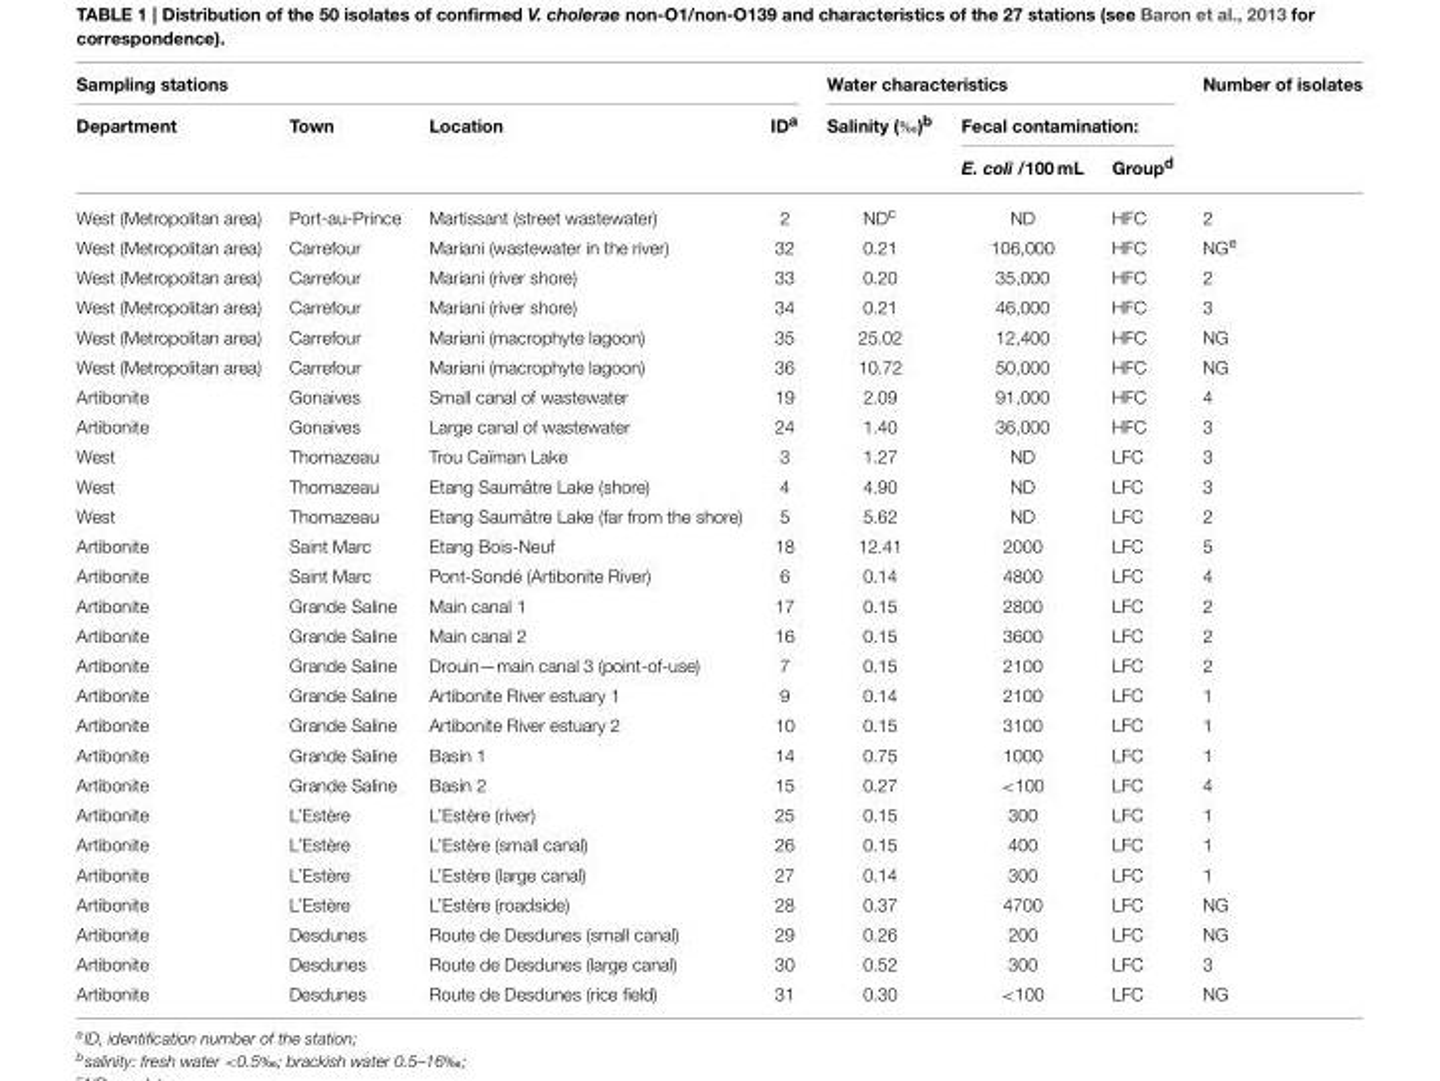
<table><thead><tr><td colspan="4">Sampling stations</td><td colspan="3">Water characteristics</td><td rowspan="3">Number of isolates</td></tr><tr><td rowspan="2">Department</td><td rowspan="2">Town</td><td rowspan="2">Location</td><td rowspan="2">ID<sup>a</sup></td><td rowspan="2">Salinity (‰)b</td><td colspan="2">Fecal contamination:</td></tr><tr><td>E. coli /100 mL</td><td>Group<sup>d</sup></td></tr></thead><tbody><tr><td>West (Metropolitan area)</td><td>Port-au-Prince</td><td>Martissant (street wastewater)</td><td>2</td><td>ND<sup>c</sup></td><td>ND</td><td>HFC</td><td>2</td></tr><tr><td>West (Metropolitan area)</td><td>Carrefour</td><td>Mariani (wastewater in the river)</td><td>32</td><td>0.21</td><td>106,000</td><td>HFC</td><td>NG<sup>e</sup></td></tr><tr><td>West (Metropolitan area)</td><td>Carrefour</td><td>Mariani (river shore)</td><td>33</td><td>0.20</td><td>35,000</td><td>HFC</td><td>2</td></tr><tr><td>West (Metropolitan area)</td><td>Carrefour</td><td>Mariani (river shore)</td><td>34</td><td>0.21</td><td>46,000</td><td>HFC</td><td>3</td></tr><tr><td>West (Metropolitan area)</td><td>Carrefour</td><td>Mariani (macrophyte lagoon)</td><td>35</td><td>25.02</td><td>12,400</td><td>HFC</td><td>NG</td></tr><tr><td>West (Metropolitan area)</td><td>Carrefour</td><td>Mariani (macrophyte lagoon)</td><td>36</td><td>10.72</td><td>50,000</td><td>HFC</td><td>NG</td></tr><tr><td>Artibonite</td><td>Gonaives</td><td>Small canal of wastewater</td><td>19</td><td>2.09</td><td>91,000</td><td>HFC</td><td>4</td></tr><tr><td>Artibonite</td><td>Gonaives</td><td>Large canal of wastewater</td><td>24</td><td>1.40</td><td>36,000</td><td>HFC</td><td>3</td></tr><tr><td>West</td><td>Thomazeau</td><td>Trou Caïman Lake</td><td>3</td><td>1.27</td><td>ND</td><td>LFC</td><td>3</td></tr><tr><td>West</td><td>Thomazeau</td><td>Etang Saumâtre Lake (shore)</td><td>4</td><td>4.90</td><td>ND</td><td>LFC</td><td>3</td></tr><tr><td>West</td><td>Thomazeau</td><td>Etang Saumâtre Lake (far from the shore)</td><td>5</td><td>5.62</td><td>ND</td><td>LFC</td><td>2</td></tr><tr><td>Artibonite</td><td>Saint Marc</td><td>Etang Bois-Neuf</td><td>18</td><td>12.41</td><td>2000</td><td>LFC</td><td>5</td></tr><tr><td>Artibonite</td><td>Saint Marc</td><td>Pont-Sondé (Artibonite River)</td><td>6</td><td>0.14</td><td>4800</td><td>LFC</td><td>4</td></tr><tr><td>Artibonite</td><td>Grande Saline</td><td>Main canal 1</td><td>17</td><td>0.15</td><td>2800</td><td>LFC</td><td>2</td></tr><tr><td>Artibonite</td><td>Grande Saline</td><td>Main canal 2</td><td>16</td><td>0.15</td><td>3600</td><td>LFC</td><td>2</td></tr><tr><td>Artibonite</td><td>Grande Saline</td><td>Drouin—main canal 3 (point-of-use)</td><td>7</td><td>0.15</td><td>2100</td><td>LFC</td><td>2</td></tr><tr><td>Artibonite</td><td>Grande Saline</td><td>Artibonite River estuary 1</td><td>9</td><td>0.14</td><td>2100</td><td>LFC</td><td>1</td></tr><tr><td>Artibonite</td><td>Grande Saline</td><td>Artibonite River estuary 2</td><td>10</td><td>0.15</td><td>3100</td><td>LFC</td><td>1</td></tr><tr><td>Artibonite</td><td>Grande Saline</td><td>Basin 1</td><td>14</td><td>0.75</td><td>1000</td><td>LFC</td><td>1</td></tr><tr><td>Artibonite</td><td>Grande Saline</td><td>Basin 2</td><td>15</td><td>0.27</td><td>&lt;100</td><td>LFC</td><td>4</td></tr><tr><td>Artibonite</td><td>L’Estère</td><td>L’Estère (river)</td><td>25</td><td>0.15</td><td>300</td><td>LFC</td><td>1</td></tr><tr><td>Artibonite</td><td>L’Estère</td><td>L’Estère (small canal)</td><td>26</td><td>0.15</td><td>400</td><td>LFC</td><td>1</td></tr><tr><td>Artibonite</td><td>L’Estère</td><td>L’Estère (large canal)</td><td>27</td><td>0.14</td><td>300</td><td>LFC</td><td>1</td></tr><tr><td>Artibonite</td><td>L’Estère</td><td>L’Estère (roadside)</td><td>28</td><td>0.37</td><td>4700</td><td>LFC</td><td>NG</td></tr><tr><td>Artibonite</td><td>Desdunes</td><td>Route de Desdunes (small canal)</td><td>29</td><td>0.26</td><td>200</td><td>LFC</td><td>NG</td></tr><tr><td>Artibonite</td><td>Desdunes</td><td>Route de Desdunes (large canal)</td><td>30</td><td>0.52</td><td>300</td><td>LFC</td><td>3</td></tr><tr><td>Artibonite</td><td>Desdunes</td><td>Route de Desdunes (rice field)</td><td>31</td><td>0.30</td><td>&lt;100</td><td>LFC</td><td>NG</td></tr></tbody></table>